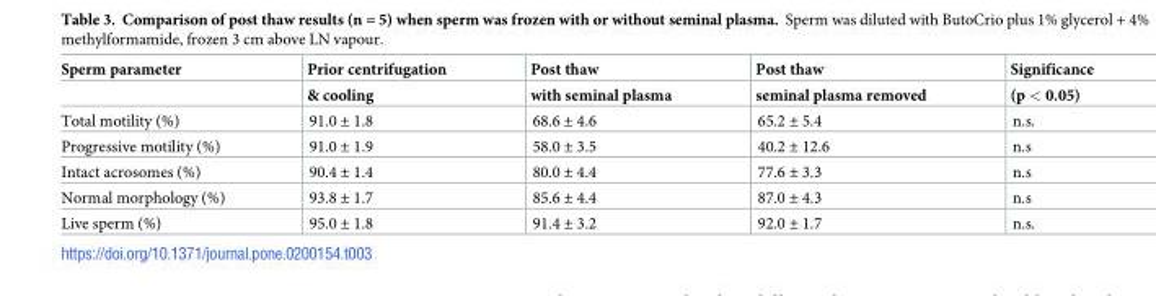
<table><thead><tr><td rowspan="2">Sperm parameter</td><td rowspan="2">Prior centrifugation &amp; cooling</td><td rowspan="2">Post thaw with seminal plasma</td><td rowspan="2">Post thaw seminal plasma removed</td><td rowspan="2">Significance (p &lt; 0.05)</td></tr><tr></tr></thead><tbody><tr><td>Total motility (%)</td><td>91.0 ± 1.8</td><td>68.6 ± 4.6</td><td>65.2 ± 5.4</td><td>n.s.</td></tr><tr><td>Progressive motility (%)</td><td>91.0 ± 1.9</td><td>58.0 ± 3.5</td><td>40.2 ± 12.6</td><td>n.s</td></tr><tr><td>Intact acrosomes (%)</td><td>90.4 ± 1.4</td><td>80.0 ± 4.4</td><td>77.6 ± 3.3</td><td>n.s</td></tr><tr><td>Normal morphology (%)</td><td>93.8 ± 1.7</td><td>85.6 ± 4.4</td><td>87.0 ± 4.3</td><td>n.s</td></tr><tr><td>Live sperm (%)</td><td>95.0 ± 1.8</td><td>91.4 ± 3.2</td><td>92.0 ± 1.7</td><td>n.s.</td></tr></tbody></table>